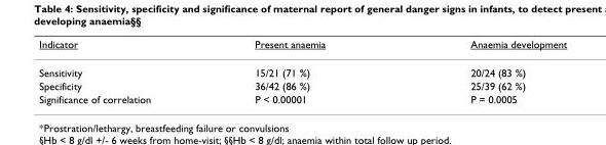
<table><thead><tr><td>Indicator</td><td>Present anaemia</td><td>Anaemia development</td></tr></thead><tbody><tr><td>Sensitivity</td><td>15/21 (71 %)</td><td>20/24 (83 %)</td></tr><tr><td>Specificity</td><td>36/42 (86 %)</td><td>25/39 (62 %)</td></tr><tr><td>Significance of correlation</td><td>P &lt; 0.00001</td><td>P = 0.0005</td></tr></tbody></table>